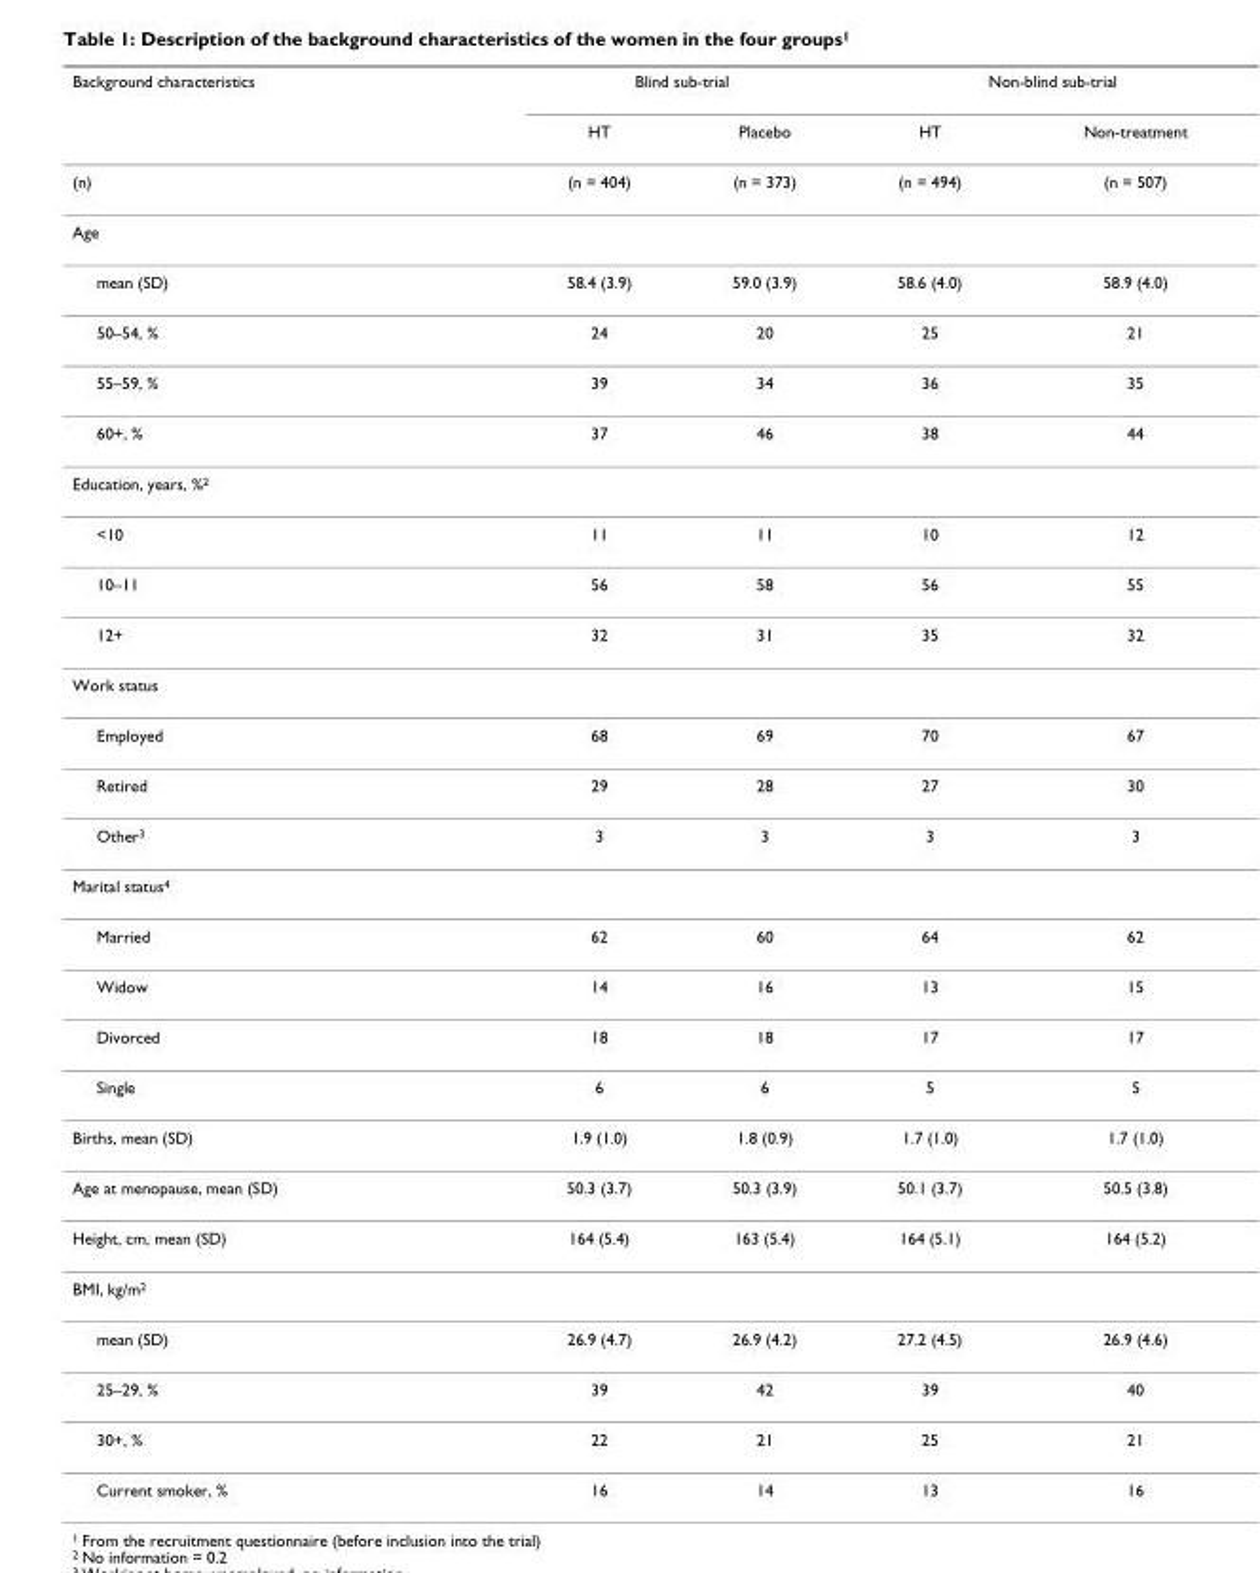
<table><thead><tr><td rowspan="2">Background characteristics</td><td colspan="2">Blind sub-trial</td><td colspan="2">Non-blind sub-trial</td></tr><tr><td>HT</td><td>Placebo</td><td>HT</td><td>Non-treatment</td></tr></thead><tbody><tr><td>(n)</td><td>(n = 404)</td><td>(n = 373)</td><td>(n = 494)</td><td>(n = 507)</td></tr><tr><td colspan="5">Age</td></tr><tr><td>mean (SD)</td><td>58.4 (3.9)</td><td>59.0 (3.9)</td><td>58.6 (4.0)</td><td>58.9 (4.0)</td></tr><tr><td>50–54, %</td><td>24</td><td>20</td><td>25</td><td>21</td></tr><tr><td>55–59, %</td><td>39</td><td>34</td><td>36</td><td>35</td></tr><tr><td>60+, %</td><td>37</td><td>46</td><td>38</td><td>44</td></tr><tr><td colspan="5">Education, years, %<sup>2</sup></td></tr><tr><td>&lt;10</td><td>11</td><td>11</td><td>10</td><td>12</td></tr><tr><td>10–11</td><td>56</td><td>58</td><td>56</td><td>55</td></tr><tr><td>12+</td><td>32</td><td>31</td><td>35</td><td>32</td></tr><tr><td colspan="5">Work status</td></tr><tr><td>Employed</td><td>68</td><td>69</td><td>70</td><td>67</td></tr><tr><td>Retired</td><td>29</td><td>28</td><td>27</td><td>30</td></tr><tr><td>Other<sup>3</sup></td><td>3</td><td>3</td><td>3</td><td>3</td></tr><tr><td colspan="5">Marital status<sup>4</sup></td></tr><tr><td>Married</td><td>62</td><td>60</td><td>64</td><td>62</td></tr><tr><td>Widow</td><td>14</td><td>16</td><td>13</td><td>15</td></tr><tr><td>Divorced</td><td>18</td><td>18</td><td>17</td><td>17</td></tr><tr><td>Single</td><td>6</td><td>6</td><td>5</td><td>5</td></tr><tr><td>Births, mean (SD)</td><td>1.9 (1.0)</td><td>1.8 (0.9)</td><td>1.7 (1.0)</td><td>1.7 (1.0)</td></tr><tr><td>Age at menopause, mean (SD)</td><td>50.3 (3.7)</td><td>50.3 (3.9)</td><td>50.1 (3.7)</td><td>50.5 (3.8)</td></tr><tr><td>Height, cm, mean (SD)</td><td>164 (5.4)</td><td>163 (5.4)</td><td>164 (5.1)</td><td>164 (5.2)</td></tr><tr><td colspan="5">BMI, kg/m<sup>2</sup></td></tr><tr><td>mean (SD)</td><td>26.9 (4.7)</td><td>26.9 (4.2)</td><td>27.2 (4.5)</td><td>26.9 (4.6)</td></tr><tr><td>25–29, %</td><td>39</td><td>42</td><td>39</td><td>40</td></tr><tr><td>30+, %</td><td>22</td><td>21</td><td>25</td><td>21</td></tr><tr><td>Current smoker, %</td><td>16</td><td>14</td><td>13</td><td>16</td></tr></tbody></table>